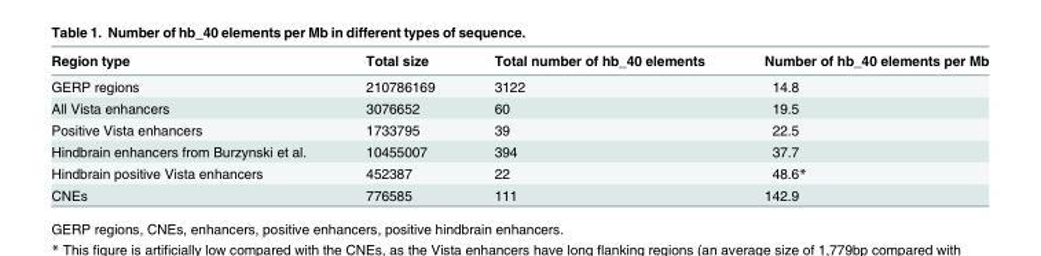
<table><thead><tr><td>Region type</td><td>Total size</td><td>Total number of hb_40 elements</td><td>Number of hb_40 elements per Mb</td></tr></thead><tbody><tr><td>GERP regions</td><td>210786169</td><td>3122</td><td>14.8</td></tr><tr><td>All Vista enhancers</td><td>3076652</td><td>60</td><td>19.5</td></tr><tr><td>Positive Vista enhancers</td><td>1733795</td><td>39</td><td>22.5</td></tr><tr><td>Hindbrain enhancers from Burzynski et al.</td><td>10455007</td><td>394</td><td>37.7</td></tr><tr><td>Hindbrain positive Vista enhancers</td><td>452387</td><td>22</td><td>48.6*</td></tr><tr><td>CNEs</td><td>776585</td><td>111</td><td>142.9</td></tr></tbody></table>